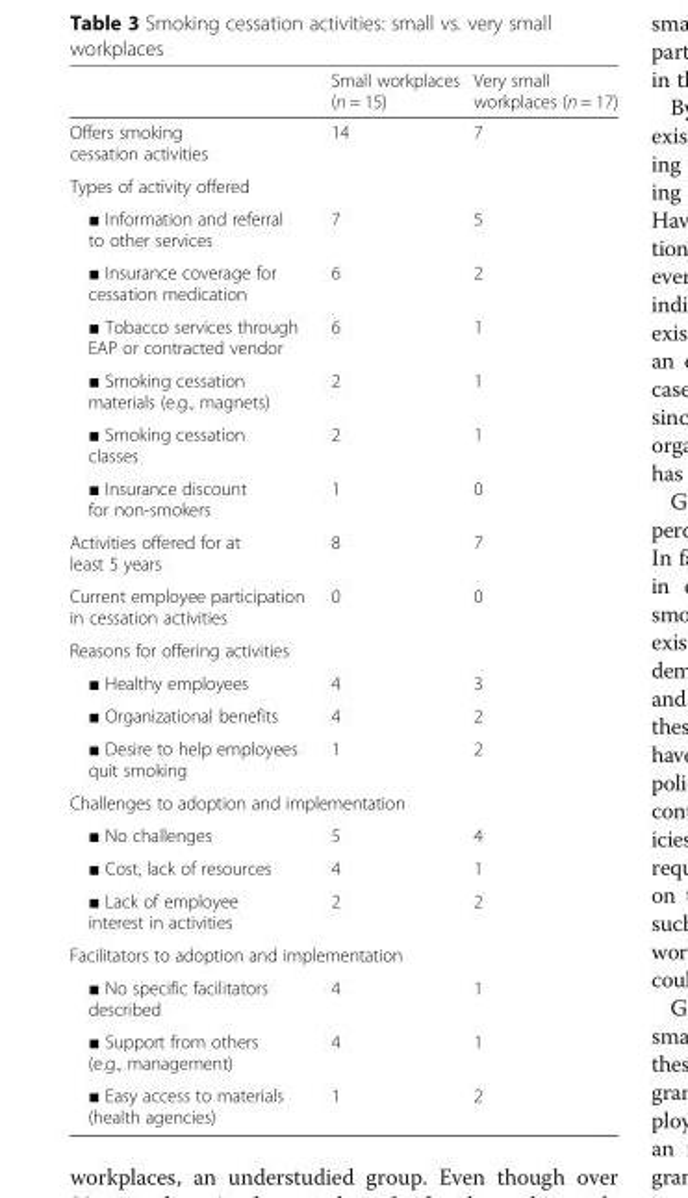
<table><thead><tr><td></td><td>Small workplaces (n = 15)</td><td>Very small workplaces (n = 17)</td></tr></thead><tbody><tr><td>Offers smoking cessation activities</td><td>14</td><td>7</td></tr><tr><td colspan="3">Types of activity offered</td></tr><tr><td>■ Information and referral to other services</td><td>7</td><td>5</td></tr><tr><td>■ Insurance coverage for cessation medication</td><td>6</td><td>2</td></tr><tr><td>■ Tobacco services through EAP or contracted vendor</td><td>6</td><td>1</td></tr><tr><td>■ Smoking cessation materials (e.g., magnets)</td><td>2</td><td>1</td></tr><tr><td>■ Smoking cessation classes</td><td>2</td><td>1</td></tr><tr><td>■ Insurance discount for non-smokers</td><td>1</td><td>0</td></tr><tr><td>Activities offered for at least 5 years</td><td>8</td><td>7</td></tr><tr><td>Current employee participation in cessation activities</td><td>0</td><td>0</td></tr><tr><td colspan="3">Reasons for offering activities</td></tr><tr><td>■ Healthy employees</td><td>4</td><td>3</td></tr><tr><td>■ Organizational benefits</td><td>4</td><td>2</td></tr><tr><td>■ Desire to help employees quit smoking</td><td>1</td><td>2</td></tr><tr><td colspan="3">Challenges to adoption and implementation</td></tr><tr><td>■ No challenges</td><td>5</td><td>4</td></tr><tr><td>■ Cost, lack of resources</td><td>4</td><td>1</td></tr><tr><td>■ Lack of employee interest in activities</td><td>2</td><td>2</td></tr><tr><td colspan="3">Facilitators to adoption and implementation</td></tr><tr><td>■ No specific facilitators described</td><td>4</td><td>1</td></tr><tr><td>■ Support from others (e.g., management)</td><td>4</td><td>1</td></tr><tr><td>■ Easy access to materials (health agencies)</td><td>1</td><td>2</td></tr></tbody></table>